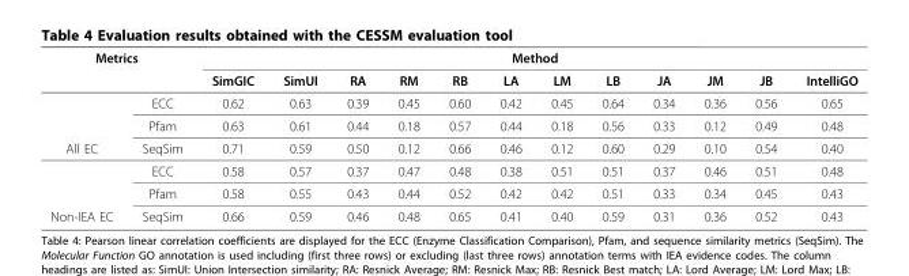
<table><thead><tr><td colspan="2">Metrics</td><td colspan="12">Method</td></tr><tr><td></td><td></td><td>SimGIC</td><td>SimUI</td><td>RA</td><td>RM</td><td>RB</td><td>LA</td><td>LM</td><td>LB</td><td>JA</td><td>JM</td><td>JB</td><td>IntelliGO</td></tr></thead><tbody><tr><td></td><td>ECC</td><td>0.62</td><td>0.63</td><td>0.39</td><td>0.45</td><td>0.60</td><td>0.42</td><td>0.45</td><td>0.64</td><td>0.34</td><td>0.36</td><td>0.56</td><td>0.65</td></tr><tr><td></td><td>Pfam</td><td>0.63</td><td>0.61</td><td>0.44</td><td>0.18</td><td>0.57</td><td>0.44</td><td>0.18</td><td>0.56</td><td>0.33</td><td>0.12</td><td>0.49</td><td>0.48</td></tr><tr><td rowspan="3">All EC</td><td>SeqSim</td><td>0.71</td><td>0.59</td><td>0.50</td><td>0.12</td><td>0.66</td><td>0.46</td><td>0.12</td><td>0.60</td><td>0.29</td><td>0.10</td><td>0.54</td><td>0.40</td></tr><tr><td>ECC</td><td>0.58</td><td>0.57</td><td>0.37</td><td>0.47</td><td>0.48</td><td>0.38</td><td>0.51</td><td>0.51</td><td>0.37</td><td>0.46</td><td>0.51</td><td>0.48</td></tr><tr><td>Pfam</td><td>0.58</td><td>0.55</td><td>0.43</td><td>0.44</td><td>0.52</td><td>0.42</td><td>0.42</td><td>0.51</td><td>0.33</td><td>0.34</td><td>0.45</td><td>0.43</td></tr><tr><td>Non-IEA EC</td><td>SeqSim</td><td>0.66</td><td>0.59</td><td>0.46</td><td>0.48</td><td>0.65</td><td>0.41</td><td>0.40</td><td>0.59</td><td>0.31</td><td>0.36</td><td>0.52</td><td>0.43</td></tr></tbody></table>